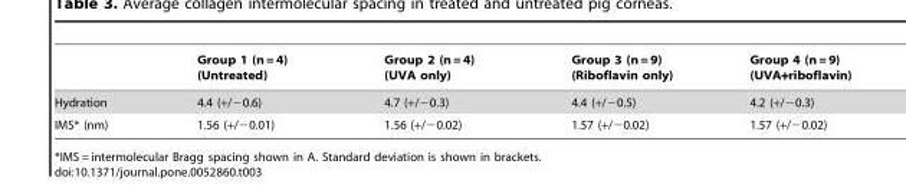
<table><thead><tr><td></td><td>Group 1 (n = 4) (Untreated)</td><td>Group 2 (n = 4) (UVA only)</td><td>Group 3 (n = 9) (Riboflavin only)</td><td>Group 4 (n = 9) (UVA+riboflavin)</td></tr></thead><tbody><tr><td>Hydration</td><td>4.4 (+/−0.6)</td><td>4.7 (+/−0.3)</td><td>4.4 (+/−0.5)</td><td>4.2 (+/−0.3)</td></tr><tr><td>IMS* (nm)</td><td>1.56 (+/−0.01)</td><td>1.56 (+/−0.02)</td><td>1.57 (+/−0.02)</td><td>1.57 (+/−0.02)</td></tr></tbody></table>